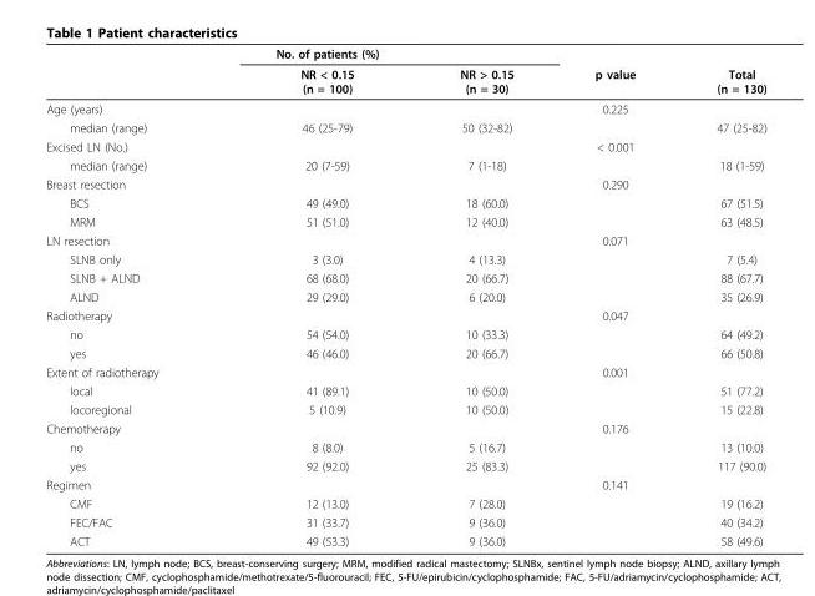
<table><thead><tr><td rowspan="2"></td><td rowspan="2">No. of patients (%) NR &lt; 0.15 (n = 100)</td><td rowspan="2">NR &gt; 0.15 (n = 30)</td><td rowspan="2">p value</td><td rowspan="2">Total (n = 130)</td></tr><tr></tr></thead><tbody><tr><td>Age (years)</td><td></td><td></td><td>0.225</td><td></td></tr><tr><td>median (range)</td><td>46 (25-79)</td><td>50 (32-82)</td><td></td><td>47 (25-82)</td></tr><tr><td>Excised LN (No.)</td><td></td><td></td><td>&lt; 0.001</td><td></td></tr><tr><td>median (range)</td><td>20 (7-59)</td><td>7 (1-18)</td><td></td><td>18 (1-59)</td></tr><tr><td>Breast resection</td><td></td><td></td><td>0.290</td><td></td></tr><tr><td>BCS</td><td>49 (49.0)</td><td>18 (60.0)</td><td></td><td>67 (51.5)</td></tr><tr><td>MRM</td><td>51 (51.0)</td><td>12 (40.0)</td><td></td><td>63 (48.5)</td></tr><tr><td>LN resection</td><td></td><td></td><td>0.071</td><td></td></tr><tr><td>SLNB only</td><td>3 (3.0)</td><td>4 (13.3)</td><td></td><td>7 (5.4)</td></tr><tr><td>SLNB + ALND</td><td>68 (68.0)</td><td>20 (66.7)</td><td></td><td>88 (67.7)</td></tr><tr><td>ALND</td><td>29 (29.0)</td><td>6 (20.0)</td><td></td><td>35 (26.9)</td></tr><tr><td>Radiotherapy</td><td></td><td></td><td>0.047</td><td></td></tr><tr><td>no</td><td>54 (54.0)</td><td>10 (33.3)</td><td></td><td>64 (49.2)</td></tr><tr><td>yes</td><td>46 (46.0)</td><td>20 (66.7)</td><td></td><td>66 (50.8)</td></tr><tr><td>Extent of radiotherapy</td><td></td><td></td><td>0.001</td><td></td></tr><tr><td>local</td><td>41 (89.1)</td><td>10 (50.0)</td><td></td><td>51 (77.2)</td></tr><tr><td>locoregional</td><td>5 (10.9)</td><td>10 (50.0)</td><td></td><td>15 (22.8)</td></tr><tr><td>Chemotherapy</td><td></td><td></td><td>0.176</td><td></td></tr><tr><td>no</td><td>8 (8.0)</td><td>5 (16.7)</td><td></td><td>13 (10.0)</td></tr><tr><td>yes</td><td>92 (92.0)</td><td>25 (83.3)</td><td></td><td>117 (90.0)</td></tr><tr><td>Regimen</td><td></td><td></td><td>0.141</td><td></td></tr><tr><td>CMF</td><td>12 (13.0)</td><td>7 (28.0)</td><td></td><td>19 (16.2)</td></tr><tr><td>FEC/FAC</td><td>31 (33.7)</td><td>9 (36.0)</td><td></td><td>40 (34.2)</td></tr><tr><td>ACT</td><td>49 (53.3)</td><td>9 (36.0)</td><td></td><td>58 (49.6)</td></tr></tbody></table>